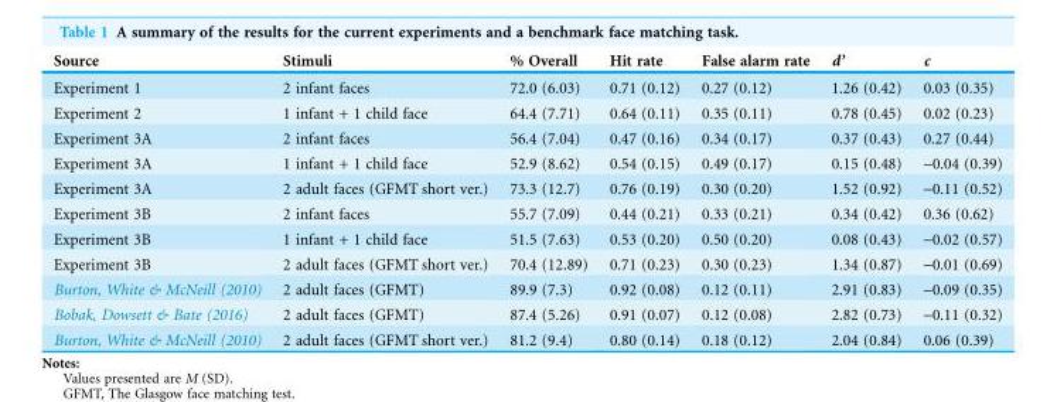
<table><thead><tr><td>Source</td><td>Stimuli</td><td>% Overall</td><td>Hit rate</td><td>False alarm rate</td><td>d’</td><td>c</td></tr></thead><tbody><tr><td>Experiment 1</td><td>2 infant faces</td><td>72.0 (6.03)</td><td>0.71 (0.12)</td><td>0.27 (0.12)</td><td>1.26 (0.42)</td><td>0.03 (0.35)</td></tr><tr><td>Experiment 2</td><td>1 infant + 1 child face</td><td>64.4 (7.71)</td><td>0.64 (0.11)</td><td>0.35 (0.11)</td><td>0.78 (0.45)</td><td>0.02 (0.23)</td></tr><tr><td>Experiment 3A</td><td>2 infant faces</td><td>56.4 (7.04)</td><td>0.47 (0.16)</td><td>0.34 (0.17)</td><td>0.37 (0.43)</td><td>0.27 (0.44)</td></tr><tr><td>Experiment 3A</td><td>1 infant + 1 child face</td><td>52.9 (8.62)</td><td>0.54 (0.15)</td><td>0.49 (0.17)</td><td>0.15 (0.48)</td><td>-0.04 (0.39)</td></tr><tr><td>Experiment 3A</td><td>2 adult faces (GFMT short ver.)</td><td>73.3 (12.7)</td><td>0.76 (0.19)</td><td>0.30 (0.20)</td><td>1.52 (0.92)</td><td>-0.11 (0.52)</td></tr><tr><td>Experiment 3B</td><td>2 infant faces</td><td>55.7 (7.09)</td><td>0.44 (0.21)</td><td>0.33 (0.21)</td><td>0.34 (0.42)</td><td>0.36 (0.62)</td></tr><tr><td>Experiment 3B</td><td>1 infant + 1 child face</td><td>51.5 (7.63)</td><td>0.53 (0.20)</td><td>0.50 (0.20)</td><td>0.08 (0.43)</td><td>-0.02 (0.57)</td></tr><tr><td>Experiment 3B</td><td>2 adult faces (GFMT short ver.)</td><td>70.4 (12.89)</td><td>0.71 (0.23)</td><td>0.30 (0.23)</td><td>1.34 (0.87)</td><td>-0.01 (0.69)</td></tr><tr><td>Burton, White &amp; McNeill (2010)</td><td>2 adult faces (GFMT)</td><td>89.9 (7.3)</td><td>0.92 (0.08)</td><td>0.12 (0.11)</td><td>2.91 (0.83)</td><td>-0.09 (0.35)</td></tr><tr><td>Bobak, Dowsett &amp; Bate (2016)</td><td>2 adult faces (GFMT)</td><td>87.4 (5.26)</td><td>0.91 (0.07)</td><td>0.12 (0.08)</td><td>2.82 (0.73)</td><td>-0.11 (0.32)</td></tr><tr><td>Burton, White &amp; McNeill (2010)</td><td>2 adult faces (GFMT short ver.)</td><td>81.2 (9.4)</td><td>0.80 (0.14)</td><td>0.18 (0.12)</td><td>2.04 (0.84)</td><td>0.06 (0.39)</td></tr></tbody></table>